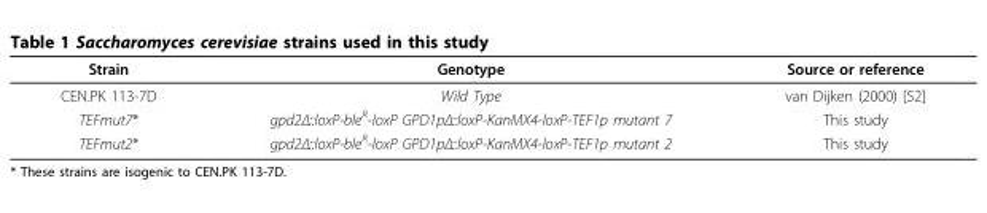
<table><thead><tr><td>Strain</td><td>Genotype</td><td>Source or reference</td></tr></thead><tbody><tr><td>CEN.PK 113-7D</td><td>Wild Type</td><td>van Dijken (2000) [52]</td></tr><tr><td>TEFmut7*</td><td>gpd2Δ::loxP-ble<sup>R</sup>-loxP GPD1pΔ::loxP-KanMX4-loxP-TEF1p mutant 7</td><td>This study</td></tr><tr><td>TEFmut2*</td><td>gpd2Δ::loxP-ble<sup>R</sup>-loxP GPD1pΔ::loxP-KanMX4-loxP-TEF1p mutant 2</td><td>This study</td></tr></tbody></table>